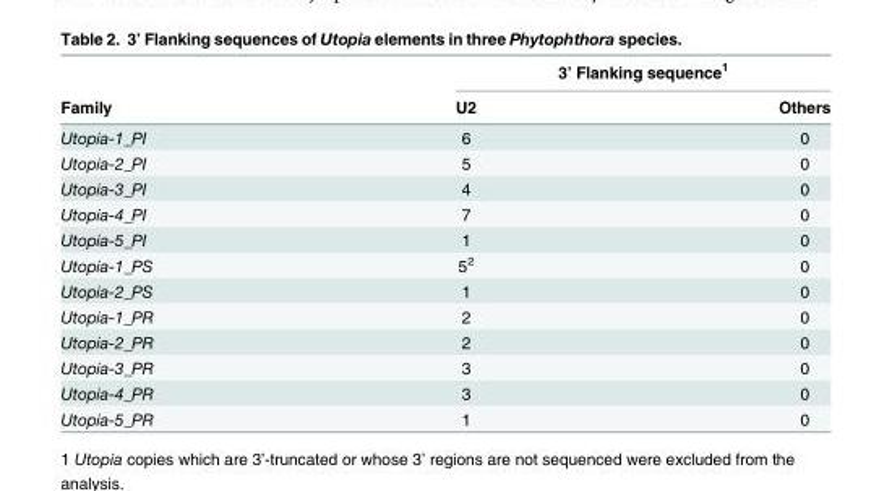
<table><thead><tr><td rowspan="2">Family</td><td colspan="2">3’ Flanking sequence<sup>1</sup></td></tr><tr><td>U2</td><td>Others</td></tr></thead><tbody><tr><td>Utopia-1_PI</td><td>6</td><td>0</td></tr><tr><td>Utopia-2_PI</td><td>5</td><td>0</td></tr><tr><td>Utopia-3_PI</td><td>4</td><td>0</td></tr><tr><td>Utopia-4_PI</td><td>7</td><td>0</td></tr><tr><td>Utopia-5_PI</td><td>1</td><td>0</td></tr><tr><td>Utopia-1_PS</td><td>5<sup>2</sup></td><td>0</td></tr><tr><td>Utopia-2_PS</td><td>1</td><td>0</td></tr><tr><td>Utopia-1_PR</td><td>2</td><td>0</td></tr><tr><td>Utopia-2_PR</td><td>2</td><td>0</td></tr><tr><td>Utopia-3_PR</td><td>3</td><td>0</td></tr><tr><td>Utopia-4_PR</td><td>3</td><td>0</td></tr><tr><td>Utopia-5_PR</td><td>1</td><td>0</td></tr></tbody></table>